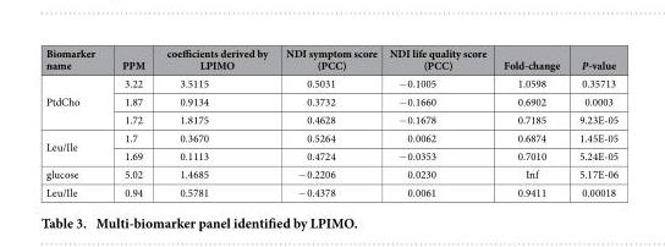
<table><thead><tr><td>Biomarker name</td><td>PPM</td><td>coefficients derived by LPIMO</td><td>NDI symptom score (PCC)</td><td>NDI life quality score (PCC)</td><td>Fold-change</td><td>P-value</td></tr></thead><tbody><tr><td rowspan="3">PtdCho</td><td>3.22</td><td>3.5115</td><td>0.5031</td><td>− 0.1005</td><td>1.0598</td><td>0.35713</td></tr><tr><td>1.87</td><td>0.9134</td><td>0.3732</td><td>− 0.1660</td><td>0.6902</td><td>0.0003</td></tr><tr><td>1.72</td><td>1.8175</td><td>0.4628</td><td>− 0.1678</td><td>0.7185</td><td>9.23E-05</td></tr><tr><td rowspan="2">Leu/Ile</td><td>1.7</td><td>0.3670</td><td>0.5264</td><td>0.0062</td><td>0.6874</td><td>1.45E-05</td></tr><tr><td>1.69</td><td>0.1113</td><td>0.4724</td><td>− 0.0353</td><td>0.7010</td><td>5.24E-05</td></tr><tr><td>glucose</td><td>5.02</td><td>1.4685</td><td>− 0.2206</td><td>0.0230</td><td>Inf</td><td>5.17E-06</td></tr><tr><td>Leu/Ile</td><td>0.94</td><td>0.5781</td><td>− 0.4378</td><td>0.0061</td><td>0.9411</td><td>0.00018</td></tr></tbody></table>